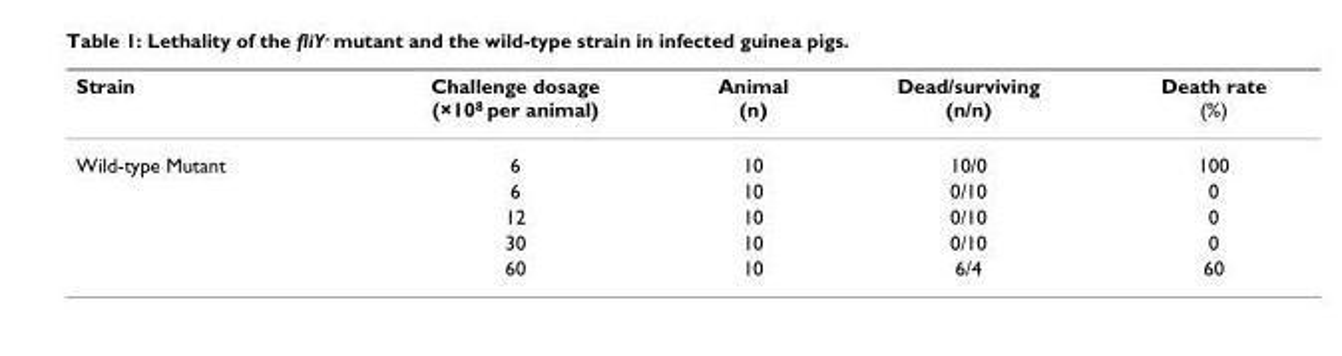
<table><thead><tr><td>Strain</td><td>Challenge dosage (×10<sup>8</sup> per animal)</td><td>Animal (n)</td><td>Dead/surviving (n/n)</td><td>Death rate (%)</td></tr></thead><tbody><tr><td rowspan="5">Wild-type Mutant</td><td>6</td><td>10</td><td>10/0</td><td>100</td></tr><tr><td>6</td><td>10</td><td>0/10</td><td>0</td></tr><tr><td>12</td><td>10</td><td>0/10</td><td>0</td></tr><tr><td>30</td><td>10</td><td>0/10</td><td>0</td></tr><tr><td>60</td><td>10</td><td>6/4</td><td>60</td></tr></tbody></table>